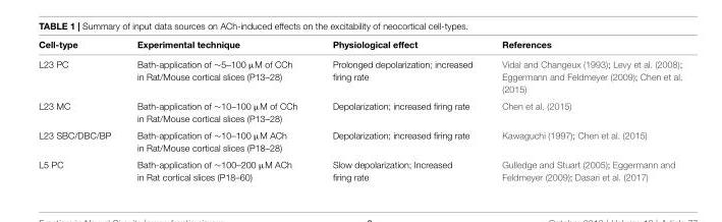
<table><thead><tr><td>Cell-type</td><td>Experimental technique</td><td>Physiological effect</td><td>References</td></tr></thead><tbody><tr><td>L23 PC</td><td>Bath-application of ∼5–100 µM of CCh in Rat/Mouse cortical slices (P13–28)</td><td>Prolonged depolarization; increased firing rate</td><td>Vidal and Changeux (1993); Levy et al. (2008); Eggermann and Feldmeyer (2009); Chen et al. (2015)</td></tr><tr><td>L23 MC</td><td>Bath-application of ∼10–100 µM of CCh in Rat/Mouse cortical slices (P13–28)</td><td>Depolarization; increased firing rate</td><td>Chen et al. (2015)</td></tr><tr><td>L23 SBC/DBC/BP</td><td>Bath-application of ∼10–100 µM ACh in Rat/Mouse cortical slices (P18–28)</td><td>Depolarization; increased firing rate</td><td>Kawaguchi (1997); Chen et al. (2015)</td></tr><tr><td>L5 PC</td><td>Bath-application of ∼100–200 µM ACh in Rat cortical slices (P18–60)</td><td>Slow depolarization; Increased firing rate</td><td>Gulledge and Stuart (2005); Eggermann and Feldmeyer (2009); Dasari et al. (2017)</td></tr></tbody></table>